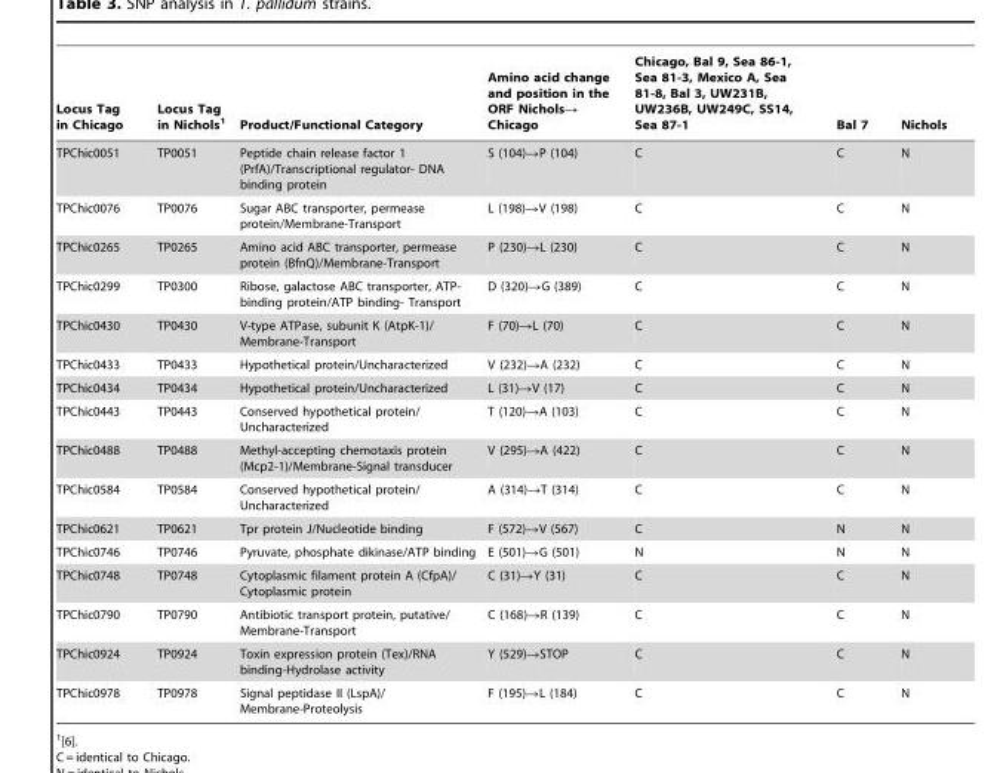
<table><thead><tr><td>Locus Tag in Chicago</td><td>Locus Tag in Nichols<sup>1</sup></td><td>Product/Functional Category</td><td>Amino acid change and position in the ORF Nichols→ Chicago</td><td>Chicago, Bal 9, Sea 86-1, Sea 81-3, Mexico A, Sea 81-8, Bal 3, UW231B, UW236B, UW249C, SS14, Sea 87-1</td><td>Bal 7</td><td>Nichols</td></tr></thead><tbody><tr><td>TPChic0051</td><td>TP0051</td><td>Peptide chain release factor 1 (PrfA)/Transcriptional regulator- DNA binding protein</td><td>S (104)→P (104)</td><td>C</td><td>C</td><td>N</td></tr><tr><td>TPChic0076</td><td>TP0076</td><td>Sugar ABC transporter, permease protein/Membrane-Transport</td><td>L (198)→V (198)</td><td>C</td><td>C</td><td>N</td></tr><tr><td>TPChic0265</td><td>TP0265</td><td>Amino acid ABC transporter, permease protein (BfnQ)/Membrane-Transport</td><td>P (230)→L (230)</td><td>C</td><td>C</td><td>N</td></tr><tr><td>TPChic0299</td><td>TP0300</td><td>Ribose, galactose ABC transporter, ATP- binding protein/ATP binding- Transport</td><td>D (320)→G (389)</td><td>C</td><td>C</td><td>N</td></tr><tr><td>TPChic0430</td><td>TP0430</td><td>V-type ATPase, subunit K (AtpK-1)/ Membrane-Transport</td><td>F (70)→L (70)</td><td>C</td><td>C</td><td>N</td></tr><tr><td>TPChic0433</td><td>TP0433</td><td>Hypothetical protein/Uncharacterized</td><td>V (232)→A (232)</td><td>C</td><td>C</td><td>N</td></tr><tr><td>TPChic0434</td><td>TP0434</td><td>Hypothetical protein/Uncharacterized</td><td>L (31)→V (17)</td><td>C</td><td>C</td><td>N</td></tr><tr><td>TPChic0443</td><td>TP0443</td><td>Conserved hypothetical protein/ Uncharacterized</td><td>T (120)→A (103)</td><td>C</td><td>C</td><td>N</td></tr><tr><td>TPChic0488</td><td>TP0488</td><td>Methyl-accepting chemotaxis protein (Mcp2-1)/Membrane-Signal transducer</td><td>V (295)→A (422)</td><td>C</td><td>C</td><td>N</td></tr><tr><td>TPChic0584</td><td>TP0584</td><td>Conserved hypothetical protein/ Uncharacterized</td><td>A (314)→T (314)</td><td>C</td><td>C</td><td>N</td></tr><tr><td>TPChic0621</td><td>TP0621</td><td>Tpr protein J/Nucleotide binding</td><td>F (572)→V (567)</td><td>C</td><td>N</td><td>N</td></tr><tr><td>TPChic0746</td><td>TP0746</td><td>Pyruvate, phosphate dikinase/ATP binding</td><td>E (501)→G (501)</td><td>N</td><td>N</td><td>N</td></tr><tr><td>TPChic0748</td><td>TP0748</td><td>Cytoplasmic filament protein A (CfpA)/ Cytoplasmic protein</td><td>C (31)→Y (31)</td><td>C</td><td>C</td><td>N</td></tr><tr><td>TPChic0790</td><td>TP0790</td><td>Antibiotic transport protein, putative/ Membrane-Transport</td><td>C (168)→R (139)</td><td>C</td><td>C</td><td>N</td></tr><tr><td>TPChic0924</td><td>TP0924</td><td>Toxin expression protein (Tex)/RNA binding-Hydrolase activity</td><td>Y (529)→STOP</td><td>C</td><td>C</td><td>N</td></tr><tr><td>TPChic0978</td><td>TP0978</td><td>Signal peptidase II (LspA)/ Membrane-Proteolysis</td><td>F (195)→L (184)</td><td>C</td><td>C</td><td>N</td></tr></tbody></table>